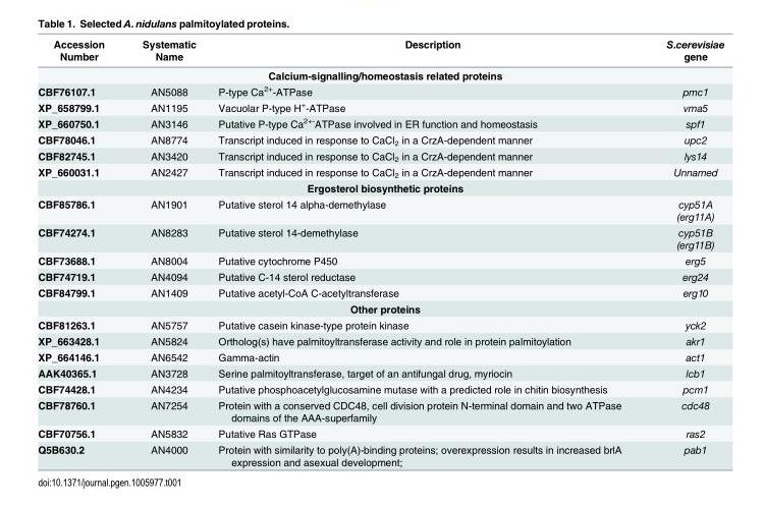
<table><thead><tr><td>Accession Number</td><td>Systematic Name</td><td>Description</td><td>S.cerevisiae gene</td></tr></thead><tbody><tr><td colspan="4">Calcium-signalling/homeostasis related proteins</td></tr><tr><td>CBF76107.1</td><td>AN5088</td><td>P-type Ca<sup>2+</sup>-ATPase</td><td>pmc1</td></tr><tr><td>XP_658799.1</td><td>AN1195</td><td>Vacuolar P-type H<sup>+</sup>-ATPase</td><td>vma5</td></tr><tr><td>XP_660750.1</td><td>AN3146</td><td>Putative P-type Ca<sup>2+-</sup>ATPase involved in ER function and homeostasis</td><td>spf1</td></tr><tr><td>CBF78046.1</td><td>AN8774</td><td>Transcript induced in response to CaCl<sub>2</sub> in a CrzA-dependent manner</td><td>upc2</td></tr><tr><td>CBF82745.1</td><td>AN3420</td><td>Transcript induced in response to CaCl<sub>2</sub> in a CrzA-dependent manner</td><td>lys14</td></tr><tr><td>XP_660031.1</td><td>AN2427</td><td>Transcript induced in response to CaCl<sub>2</sub> in a CrzA-dependent manner</td><td>Unnamed</td></tr><tr><td colspan="4">Ergosterol biosynthetic proteins</td></tr><tr><td>CBF85786.1</td><td>AN1901</td><td>Putative sterol 14 alpha-demethylase</td><td>cyp51A (erg11A)</td></tr><tr><td>CBF74274.1</td><td>AN8283</td><td>Putative sterol 14-demethylase</td><td>cyp51B (erg11B)</td></tr><tr><td>CBF73688.1</td><td>AN8004</td><td>Putative cytochrome P450</td><td>erg5</td></tr><tr><td>CBF74719.1</td><td>AN4094</td><td>Putative C-14 sterol reductase</td><td>erg24</td></tr><tr><td>CBF84799.1</td><td>AN1409</td><td>Putative acetyl-CoA C-acetyltransferase</td><td>erg10</td></tr><tr><td colspan="4">Other proteins</td></tr><tr><td>CBF81263.1</td><td>AN5757</td><td>Putative casein kinase-type protein kinase</td><td>yck2</td></tr><tr><td>XP_663428.1</td><td>AN5824</td><td>Ortholog(s) have palmitoyltransferase activity and role in protein palmitoylation</td><td>akr1</td></tr><tr><td>XP_664146.1</td><td>AN6542</td><td>Gamma-actin</td><td>act1</td></tr><tr><td>AAK40365.1</td><td>AN3728</td><td>Serine palmitoyltransferase, target of an antifungal drug, myriocin</td><td>lcb1</td></tr><tr><td>CBF74428.1</td><td>AN4234</td><td>Putative phosphoacetylglucosamine mutase with a predicted role in chitin biosynthesis</td><td>pcm1</td></tr><tr><td>CBF78760.1</td><td>AN7254</td><td>Protein with a conserved CDC48, cell division protein N-terminal domain and two ATPase domains of the AAA-superfamily</td><td>cdc48</td></tr><tr><td>CBF70756.1</td><td>AN5832</td><td>Putative Ras GTPase</td><td>ras2</td></tr><tr><td>Q5B630.2</td><td>AN4000</td><td>Protein with similarity to poly(A)-binding proteins; overexpression results in increased brlA expression and asexual development;</td><td>pab1</td></tr></tbody></table>